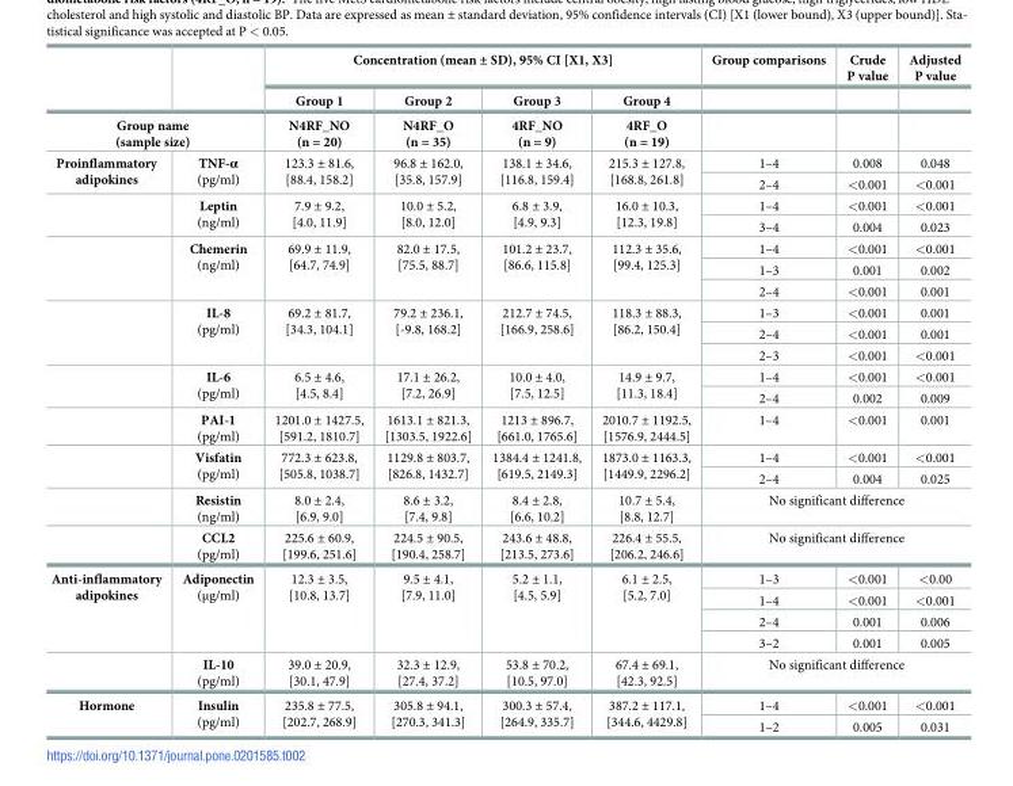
<table><thead><tr><td rowspan="2"></td><td rowspan="2"></td><td colspan="4">Concentration (mean ± SD), 95% CI [X1, X3]</td><td rowspan="3">Group comparisons</td><td rowspan="3">Crude P value</td><td rowspan="3">Adjusted P value</td></tr><tr><td rowspan="2">Group 1 N4RF_NO (n = 20)</td><td rowspan="2">Group 2 N4RF_O (n = 35)</td><td rowspan="2">Group 3 4RF_NO (n = 9)</td><td rowspan="2">Group 4 4RF_O (n = 19)</td></tr><tr><td colspan="2">Group name (sample size)</td></tr></thead><tbody><tr><td rowspan="17">Proinflammatory adipokines</td><td rowspan="2">TNF-α (pg/ml)</td><td rowspan="2">123.3 ± 81.6, [88.4, 158.2]</td><td rowspan="2">96.8 ± 162.0, [35.8, 157.9]</td><td rowspan="2">138.1 ± 34.6, [116.8, 159.4]</td><td rowspan="2">215.3 ± 127.8, [168.8, 261.8]</td><td>1–4</td><td>0.008</td><td>0.048</td></tr><tr><td>2–4</td><td>&lt;0.001</td><td>&lt;0.001</td></tr><tr><td rowspan="2">Leptin (ng/ml)</td><td rowspan="2">7.9 ± 9.2, [4.0, 11.9]</td><td rowspan="2">10.0 ± 5.2, [8.0, 12.0]</td><td rowspan="2">6.8 ± 3.9, [4.9, 9.3]</td><td rowspan="2">16.0 ± 10.3, [12.3, 19.8]</td><td>1–4</td><td>&lt;0.001</td><td>&lt;0.001</td></tr><tr><td>3–4</td><td>0.004</td><td>0.023</td></tr><tr><td rowspan="3">Chemerin (ng/ml)</td><td rowspan="3">69.9 ± 11.9, [64.7, 74.9]</td><td rowspan="3">82.0 ± 17.5, [75.5, 88.7]</td><td rowspan="3">101.2 ± 23.7, [86.6, 115.8]</td><td rowspan="3">112.3 ± 35.6, [99.4, 125.3]</td><td>1–4</td><td>&lt;0.001</td><td>&lt;0.001</td></tr><tr><td>1–3</td><td>0.001</td><td>0.002</td></tr><tr><td>2–4</td><td>&lt;0.001</td><td>0.001</td></tr><tr><td rowspan="3">IL-8 (pg/ml)</td><td rowspan="3">69.2 ± 81.7, [34.3, 104.1]</td><td rowspan="3">79.2 ± 236.1, [-9.8, 168.2]</td><td rowspan="3">212.7 ± 74.5, [166.9, 258.6]</td><td rowspan="3">118.3 ± 88.3, [86.2, 150.4]</td><td>1–3</td><td>&lt;0.001</td><td>0.001</td></tr><tr><td>2–4</td><td>&lt;0.001</td><td>0.001</td></tr><tr><td>2–3</td><td>&lt;0.001</td><td>&lt;0.001</td></tr><tr><td rowspan="2">IL-6 (pg/ml)</td><td rowspan="2">6.5 ± 4.6, [4.5, 8.4]</td><td rowspan="2">17.1 ± 26.2, [7.2, 26.9]</td><td rowspan="2">10.0 ± 4.0, [7.5, 12.5]</td><td rowspan="2">14.9 ± 9.7, [11.3, 18.4]</td><td>1–4</td><td>&lt;0.001</td><td>&lt;0.001</td></tr><tr><td>2–4</td><td>0.002</td><td>0.009</td></tr><tr><td>PAI-1 (pg/ml)</td><td>1201.0 ± 1427.5, [591.2, 1810.7]</td><td>1613.1 ± 821.3, [1303.5, 1922.6]</td><td>1213 ± 896.7, [661.0, 1765.6]</td><td>2010.7 ± 1192.5, [1576.9, 2444.5]</td><td>1–4</td><td>&lt;0.001</td><td>0.001</td></tr><tr><td rowspan="2">Visfatin (pg/ml)</td><td rowspan="2">772.3 ± 623.8, [505.8, 1038.7]</td><td rowspan="2">1129.8 ± 803.7, [826.8, 1432.7]</td><td rowspan="2">1384.4 ± 1241.8, [619.5, 2149.3]</td><td rowspan="2">1873.0 ± 1163.3, [1449.9, 2296.2]</td><td>1–4</td><td>&lt;0.001</td><td>&lt;0.001</td></tr><tr><td>2–4</td><td>0.004</td><td>0.025</td></tr><tr><td>Resistin (ng/ml)</td><td>8.0 ± 2.4, [6.9, 9.0]</td><td>8.6 ± 3.2, [7.4, 9.8]</td><td>8.4 ± 2.8, [6.6, 10.2]</td><td>10.7 ± 5.4, [8.8, 12.7]</td><td colspan="3">No significant difference</td></tr><tr><td>CCL2 (pg/ml)</td><td>225.6 ± 60.9, [199.6, 251.6]</td><td>224.5 ± 90.5, [190.4, 258.7]</td><td>243.6 ± 48.8, [213.5, 273.6]</td><td>226.4 ± 55.5, [206.2, 246.6]</td><td colspan="3">No significant difference</td></tr><tr><td rowspan="5">Anti-inflammatory adipokines</td><td rowspan="4">Adiponectin (μg/ml)</td><td rowspan="4">12.3 ± 3.5, [10.8, 13.7]</td><td rowspan="4">9.5 ± 4.1, [7.9, 11.0]</td><td rowspan="4">5.2 ± 1.1, [4.5, 5.9]</td><td rowspan="4">6.1 ± 2.5, [5.2, 7.0]</td><td>1–3</td><td>&lt;0.001</td><td>&lt;0.00</td></tr><tr><td>1–4</td><td>&lt;0.001</td><td>&lt;0.001</td></tr><tr><td>2–4</td><td>0.001</td><td>0.006</td></tr><tr><td>3–2</td><td>0.001</td><td>0.005</td></tr><tr><td>IL-10 (pg/ml)</td><td>39.0 ± 20.9, [30.1, 47.9]</td><td>32.3 ± 12.9, [27.4, 37.2]</td><td>53.8 ± 70.2, [10.5, 97.0]</td><td>67.4 ± 69.1, [42.3, 92.5]</td><td colspan="3">No significant difference</td></tr><tr><td rowspan="2">Hormone</td><td rowspan="2">Insulin (pg/ml)</td><td rowspan="2">235.8 ± 77.5, [202.7, 268.9]</td><td rowspan="2">305.8 ± 94.1, [270.3, 341.3]</td><td rowspan="2">300.3 ± 57.4, [264.9, 335.7]</td><td rowspan="2">387.2 ± 117.1, [344.6, 4429.8]</td><td>1–4</td><td>&lt;0.001</td><td>&lt;0.001</td></tr><tr><td>1–2</td><td>0.005</td><td>0.031</td></tr></tbody></table>